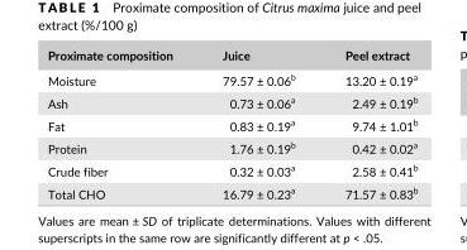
<table><thead><tr><td>Proximate composition</td><td>Juice</td><td>Peel extract</td></tr></thead><tbody><tr><td>Moisture</td><td>79.57 ± 0.06<sup>b</sup></td><td>13.20 ± 0.19<sup>a</sup></td></tr><tr><td>Ash</td><td>0.73 ± 0.06<sup>a</sup></td><td>2.49 ± 0.19<sup>b</sup></td></tr><tr><td>Fat</td><td>0.83 ± 0.19<sup>a</sup></td><td>9.74 ± 1.01<sup>b</sup></td></tr><tr><td>Protein</td><td>1.76 ± 0.19<sup>b</sup></td><td>0.42 ± 0.02<sup>a</sup></td></tr><tr><td>Crude fiber</td><td>0.32 ± 0.03<sup>a</sup></td><td>2.58 ± 0.41<sup>b</sup></td></tr><tr><td>Total CHO</td><td>16.79 ± 0.23<sup>a</sup></td><td>71.57 ± 0.83<sup>b</sup></td></tr></tbody></table>